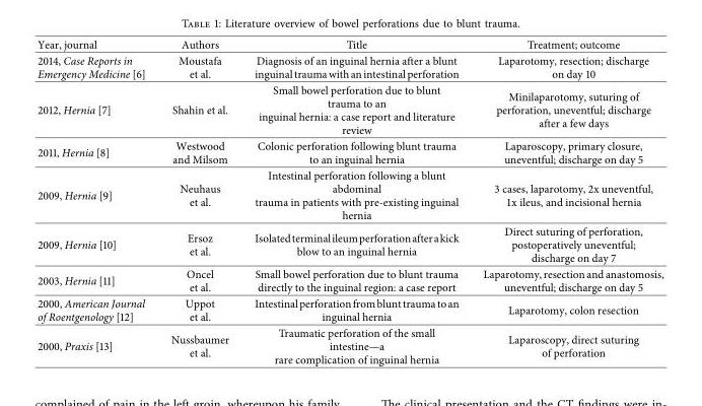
<table><thead><tr><td>Year, journal</td><td>Authors</td><td>Title</td><td>Treatment; outcome</td></tr></thead><tbody><tr><td>2014, Case Reports in Emergency Medicine [6]</td><td>Moustafa et al.</td><td>Diagnosis of an inguinal hernia after a blunt inguinaltraumawithanintestinalperforation</td><td>Laparotomy, resection; discharge on day 10</td></tr><tr><td>2012, Hernia [7]</td><td>Shahin et al.</td><td>Small bowel perforation due to blunt trauma to an inguinal hernia: a case report and literature review</td><td>Minilaparotomy, suturing of perforation, uneventful; discharge after a few days</td></tr><tr><td>2011, Hernia [8]</td><td>Westwood and Milsom</td><td>Colonic perforation following blunt trauma to an inguinal hernia</td><td>Laparoscopy, primary closure, uneventful; discharge on day 5</td></tr><tr><td>2009, Hernia [9]</td><td>Neuhaus et al.</td><td>Intestinal perforation following a blunt abdominal trauma in patients with pre-existing inguinal hernia</td><td>3 cases, laparotomy, 2x uneventful, 1x ileus, and incisional hernia</td></tr><tr><td>2009, Hernia [10]</td><td>Ersoz et al.</td><td>Isolatedterminalileumperforationafterakick blow to an inguinal hernia</td><td>Direct suturing of perforation, postoperatively uneventful; discharge on day 7</td></tr><tr><td>2003, Hernia [11]</td><td>Oncel et al.</td><td>Small bowel perforation due to blunt trauma directly to the inguinal region: a case report</td><td>Laparotomy, resectionandanastomosis, uneventful; discharge on day 5</td></tr><tr><td>2000, American Journal of Roentgenology [12]</td><td>Uppot et al.</td><td>Intestinalperforationfromblunttraumatoan inguinal hernia</td><td>Laparotomy, colon resection</td></tr><tr><td>2000, Praxis [13]</td><td>Nussbaumer et al.</td><td>Traumatic perforation of the small intestine—a rare complication of inguinal hernia</td><td>Laparoscopy, direct suturing of perforation</td></tr></tbody></table>